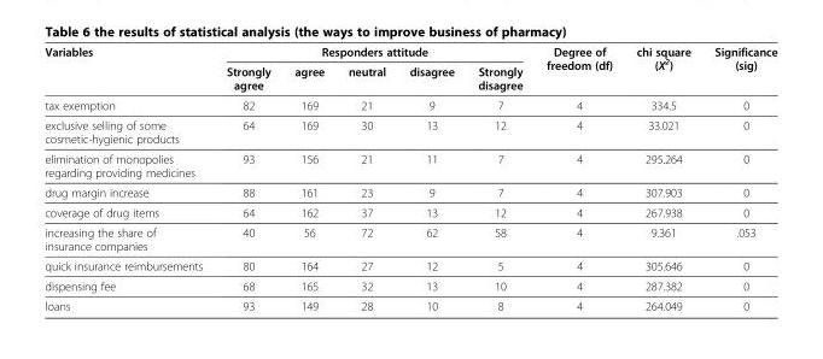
<table><thead><tr><td rowspan="2">Variables</td><td colspan="5">Responders attitude</td><td rowspan="2">Degree of freedom (df)</td><td rowspan="2">chi square (X<sup>2</sup>)</td><td rowspan="2">Significance (sig)</td></tr><tr><td>Strongly agree</td><td>agree</td><td>neutral</td><td>disagree</td><td>Strongly disagree</td></tr></thead><tbody><tr><td>tax exemption</td><td>82</td><td>169</td><td>21</td><td>9</td><td>7</td><td>4</td><td>334.5</td><td>0</td></tr><tr><td>exclusive selling of some cosmetic-hygienic products</td><td>64</td><td>169</td><td>30</td><td>13</td><td>12</td><td>4</td><td>33.021</td><td>0</td></tr><tr><td>elimination of monopolies regarding providing medicines</td><td>93</td><td>156</td><td>21</td><td>11</td><td>7</td><td>4</td><td>295.264</td><td>0</td></tr><tr><td>drug margin increase</td><td>88</td><td>161</td><td>23</td><td>9</td><td>7</td><td>4</td><td>307.903</td><td>0</td></tr><tr><td>coverage of drug items</td><td>64</td><td>162</td><td>37</td><td>13</td><td>12</td><td>4</td><td>267.938</td><td>0</td></tr><tr><td>increasing the share of insurance companies</td><td>40</td><td>56</td><td>72</td><td>62</td><td>58</td><td>4</td><td>9.361</td><td>.053</td></tr><tr><td>quick insurance reimbursements</td><td>80</td><td>164</td><td>27</td><td>12</td><td>5</td><td>4</td><td>305.646</td><td>0</td></tr><tr><td>dispensing fee</td><td>68</td><td>165</td><td>32</td><td>13</td><td>10</td><td>4</td><td>287.382</td><td>0</td></tr><tr><td>loans</td><td>93</td><td>149</td><td>28</td><td>10</td><td>8</td><td>4</td><td>264.049</td><td>0</td></tr></tbody></table>